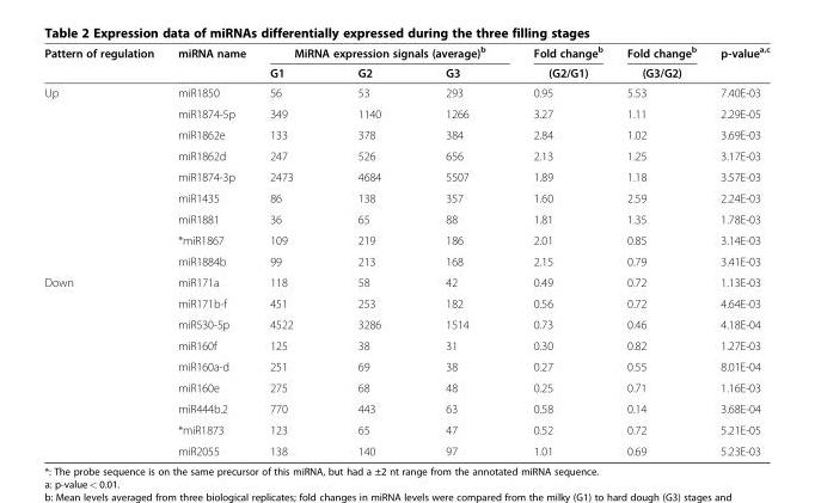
<table><thead><tr><td rowspan="2">Pattern of regulation</td><td rowspan="2">miRNA name</td><td colspan="3">MiRNA expression signals (average)<sup>b</sup></td><td rowspan="2">Fold change<sup>b</sup> (G2/G1)</td><td rowspan="2">Fold change<sup>b</sup> (G3/G2)</td><td rowspan="2">p-value<sup>a,c</sup></td></tr><tr><td>G1</td><td>G2</td><td>G3</td></tr></thead><tbody><tr><td rowspan="9">Up</td><td>miR1850</td><td>56</td><td>53</td><td>293</td><td>0.95</td><td>5.53</td><td>7.40E-03</td></tr><tr><td>miR1874-5p</td><td>349</td><td>1140</td><td>1266</td><td>3.27</td><td>1.11</td><td>2.29E-05</td></tr><tr><td>miR1862e</td><td>133</td><td>378</td><td>384</td><td>2.84</td><td>1.02</td><td>3.69E-03</td></tr><tr><td>miR1862d</td><td>247</td><td>526</td><td>656</td><td>2.13</td><td>1.25</td><td>3.17E-03</td></tr><tr><td>miR1874-3p</td><td>2473</td><td>4684</td><td>5507</td><td>1.89</td><td>1.18</td><td>3.57E-03</td></tr><tr><td>miR1435</td><td>86</td><td>138</td><td>357</td><td>1.60</td><td>2.59</td><td>2.24E-03</td></tr><tr><td>miR1881</td><td>36</td><td>65</td><td>88</td><td>1.81</td><td>1.35</td><td>1.78E-03</td></tr><tr><td>*miR1867</td><td>109</td><td>219</td><td>186</td><td>2.01</td><td>0.85</td><td>3.14E-03</td></tr><tr><td>miR1884b</td><td>99</td><td>213</td><td>168</td><td>2.15</td><td>0.79</td><td>3.41E-03</td></tr><tr><td rowspan="9">Down</td><td>miR171a</td><td>118</td><td>58</td><td>42</td><td>0.49</td><td>0.72</td><td>1.13E-03</td></tr><tr><td>miR171b-f</td><td>451</td><td>253</td><td>182</td><td>0.56</td><td>0.72</td><td>4.64E-03</td></tr><tr><td>miR530-5p</td><td>4522</td><td>3286</td><td>1514</td><td>0.73</td><td>0.46</td><td>4.18E-04</td></tr><tr><td>miR160f</td><td>125</td><td>38</td><td>31</td><td>0.30</td><td>0.82</td><td>1.27E-03</td></tr><tr><td>miR160a-d</td><td>251</td><td>69</td><td>38</td><td>0.27</td><td>0.55</td><td>8.01E-04</td></tr><tr><td>miR160e</td><td>275</td><td>68</td><td>48</td><td>0.25</td><td>0.71</td><td>1.16E-03</td></tr><tr><td>miR444b.2</td><td>770</td><td>443</td><td>63</td><td>0.58</td><td>0.14</td><td>3.68E-04</td></tr><tr><td>*miR1873</td><td>123</td><td>65</td><td>47</td><td>0.52</td><td>0.72</td><td>5.21E-05</td></tr><tr><td>miR2055</td><td>138</td><td>140</td><td>97</td><td>1.01</td><td>0.69</td><td>5.23E-03</td></tr></tbody></table>